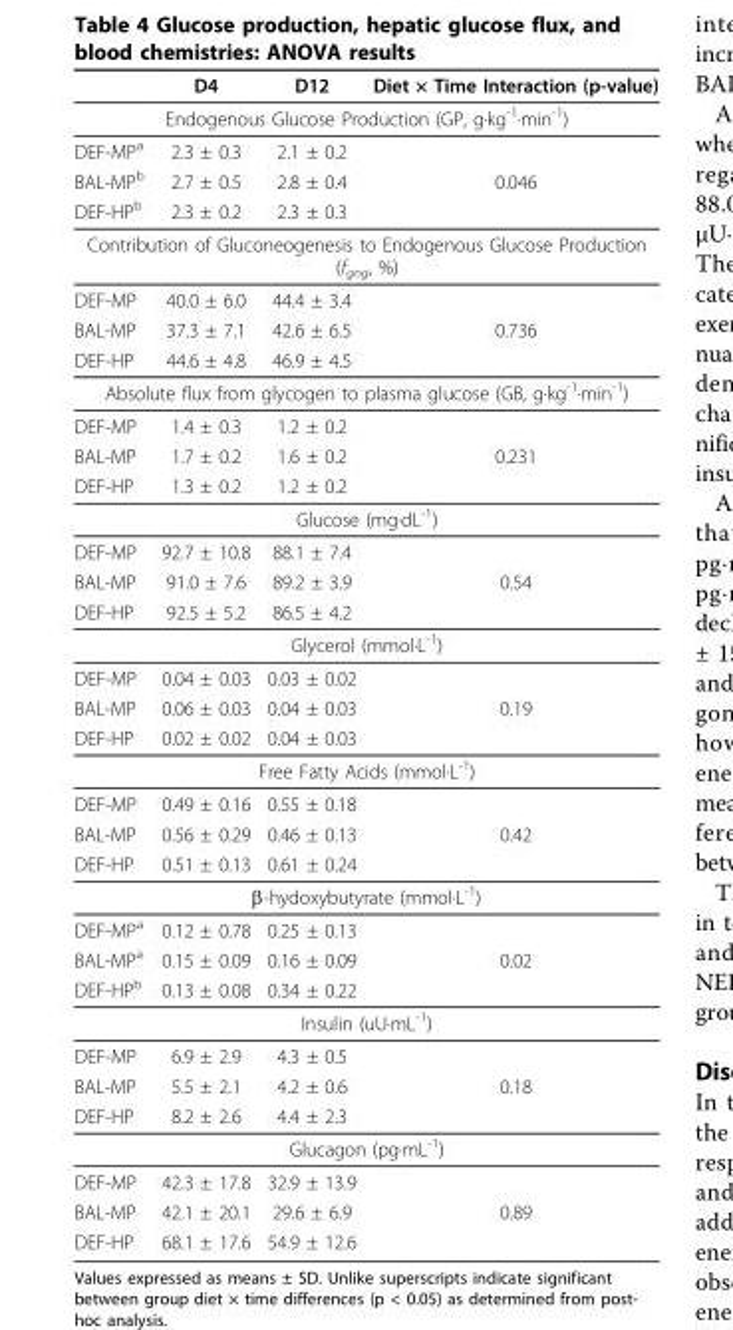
<table><thead><tr><td></td><td>D4</td><td>D12</td><td>Diet × Time Interaction (p-value)</td></tr></thead><tbody><tr><td colspan="4">Endogenous Glucose Production (GP, g·kg<sup>-1</sup>·min<sup>-1</sup>)</td></tr><tr><td>DEF-MP<sup>a</sup></td><td>2.3 ± 0.3</td><td>2.1 ± 0.2</td><td></td></tr><tr><td>BAL-MP<sup>b</sup></td><td>2.7 ± 0.5</td><td>2.8 ± 0.4</td><td>0.046</td></tr><tr><td>DEF-HP<sup>b</sup></td><td>2.3 ± 0.2</td><td>2.3 ± 0.3</td><td></td></tr><tr><td colspan="4">Contribution of Gluconeogenesis to Endogenous Glucose Production (f<sub>gng</sub>, %)</td></tr><tr><td>DEF-MP</td><td>40.0 ± 6.0</td><td>44.4 ± 3.4</td><td></td></tr><tr><td>BAL-MP</td><td>37.3 ± 7.1</td><td>42.6 ± 6.5</td><td>0.736</td></tr><tr><td>DEF-HP</td><td>44.6 ± 4.8</td><td>46.9 ± 4.5</td><td></td></tr><tr><td colspan="4">Absolute flux from glycogen to plasma glucose (GB, g·kg<sup>-1</sup>·min<sup>-1</sup>)</td></tr><tr><td>DEF-MP</td><td>1.4 ± 0.3</td><td>1.2 ± 0.2</td><td></td></tr><tr><td>BAL-MP</td><td>1.7 ± 0.2</td><td>1.6 ± 0.2</td><td>0.231</td></tr><tr><td>DEF-HP</td><td>1.3 ± 0.2</td><td>1.2 ± 0.2</td><td></td></tr><tr><td colspan="4">Glucose (mg·dL<sup>-1</sup>)</td></tr><tr><td>DEF-MP</td><td>92.7 ± 10.8</td><td>88.1 ± 7.4</td><td></td></tr><tr><td>BAL-MP</td><td>91.0 ± 7.6</td><td>89.2 ± 3.9</td><td>0.54</td></tr><tr><td>DEF-HP</td><td>92.5 ± 5.2</td><td>86.5 ± 4.2</td><td></td></tr><tr><td colspan="4">Glycerol (mmol·L<sup>-1</sup>)</td></tr><tr><td>DEF-MP</td><td>0.04 ± 0.03</td><td>0.03 ± 0.02</td><td></td></tr><tr><td>BAL-MP</td><td>0.06 ± 0.03</td><td>0.04 ± 0.03</td><td>0.19</td></tr><tr><td>DEF-HP</td><td>0.02 ± 0.02</td><td>0.04 ± 0.03</td><td></td></tr><tr><td colspan="4">Free Fatty Acids (mmol·L<sup>-1</sup>)</td></tr><tr><td>DEF-MP</td><td>0.49 ± 0.16</td><td>0.55 ± 0.18</td><td></td></tr><tr><td>BAL-MP</td><td>0.56 ± 0.29</td><td>0.46 ± 0.13</td><td>0.42</td></tr><tr><td>DEF-HP</td><td>0.51 ± 0.13</td><td>0.61 ± 0.24</td><td></td></tr><tr><td colspan="4">β-hydoxybutyrate (mmol·L<sup>-1</sup>)</td></tr><tr><td>DEF-MP<sup>a</sup></td><td>0.12 ± 0.78</td><td>0.25 ± 0.13</td><td></td></tr><tr><td>BAL-MP<sup>a</sup></td><td>0.15 ± 0.09</td><td>0.16 ± 0.09</td><td>0.02</td></tr><tr><td>DEF-HP<sup>b</sup></td><td>0.13 ± 0.08</td><td>0.34 ± 0.22</td><td></td></tr><tr><td colspan="4">Insulin (uU·mL<sup>-1</sup>)</td></tr><tr><td>DEF-MP</td><td>6.9 ± 2.9</td><td>4.3 ± 0.5</td><td></td></tr><tr><td>BAL-MP</td><td>5.5 ± 2.1</td><td>4.2 ± 0.6</td><td>0.18</td></tr><tr><td>DEF-HP</td><td>8.2 ± 2.6</td><td>4.4 ± 2.3</td><td></td></tr><tr><td colspan="4">Glucagon (pg·mL<sup>-1</sup>)</td></tr><tr><td>DEF-MP</td><td>42.3 ± 17.8</td><td>32.9 ± 13.9</td><td></td></tr><tr><td>BAL-MP</td><td>42.1 ± 20.1</td><td>29.6 ± 6.9</td><td>0.89</td></tr><tr><td>DEF-HP</td><td>68.1 ± 17.6</td><td>54.9 ± 12.6</td><td></td></tr></tbody></table>